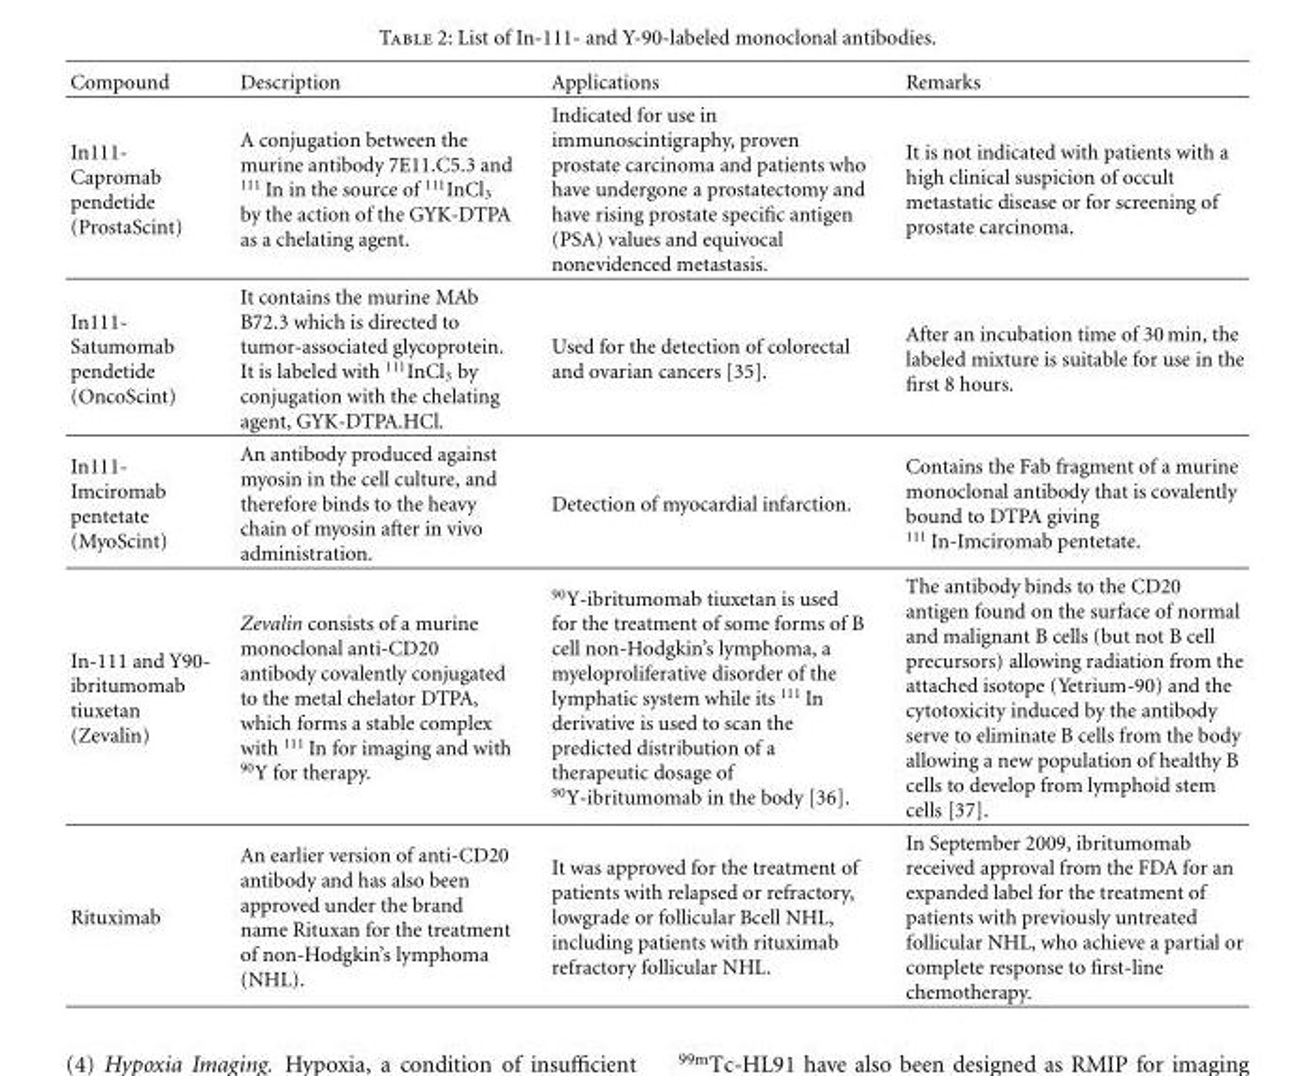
<table><thead><tr><td>Compound</td><td>Description</td><td>Applications</td><td>Remarks</td></tr></thead><tbody><tr><td>In111- Capromab pendetide (ProstaScint)</td><td>A conjugation between the murine antibody 7E11.C5.3 and <sup>111</sup> In in the source of <sup>111</sup>InCl<sub>3</sub> by the action of the GYK-DTPA as a chelating agent.</td><td>Indicated for use in immunoscintigraphy, proven prostate carcinoma and patients who have undergone a prostatectomy and have rising prostate specific antigen (PSA) values and equivocal nonevidenced metastasis.</td><td>It is not indicated with patients with a high clinical suspicion of occult metastatic disease or for screening of prostate carcinoma.</td></tr><tr><td>In111- Satumomab pendetide (OncoScint)</td><td>It contains the murine MAb B72.3 which is directed to tumor-associated glycoprotein. It is labeled with <sup>111</sup>InCl<sub>3</sub> by conjugation with the chelating agent, GYK-DTPA.HCl.</td><td>Used for the detection of colorectal and ovarian cancers [35].</td><td>After an incubation time of 30 min, the labeled mixture is suitable for use in the first 8 hours.</td></tr><tr><td>In111- Imciromab pentetate (MyoScint)</td><td>An antibody produced against myosin in the cell culture, and therefore binds to the heavy chain of myosin after in vivo administration.</td><td>Detection of myocardial infarction.</td><td>Contains the Fab fragment of a murine monoclonal antibody that is covalently bound to DTPA giving <sup>111</sup> In-Imciromab pentetate.</td></tr><tr><td>In-111 and Y90- ibritumomab tiuxetan (Zevalin)</td><td>Zevalin consists of a murine monoclonal anti-CD20 antibody covalently conjugated to the metal chelator DTPA, which forms a stable complex with <sup>111</sup> In for imaging and with <sup>90</sup>Y for therapy.</td><td><sup>90</sup>Y-ibritumomab tiuxetan is used for the treatment of some forms of B cell non-Hodgkin’s lymphoma, a myeloproliferative disorder of the lymphatic system while its <sup>111</sup> In derivative is used to scan the predicted distribution of a therapeutic dosage of <sup>90</sup>Y-ibritumomab in the body [36].</td><td>The antibody binds to the CD20 antigen found on the surface of normal and malignant B cells (but not B cell precursors) allowing radiation from the attached isotope (Yetrium-90) and the cytotoxicity induced by the antibody serve to eliminate B cells from the body allowing a new population of healthy B cells to develop from lymphoid stem cells [37].</td></tr><tr><td>Rituximab</td><td>An earlier version of anti-CD20 antibody and has also been approved under the brand name Rituxan for the treatment of non-Hodgkin’s lymphoma (NHL).</td><td>It was approved for the treatment of patients with relapsed or refractory, lowgrade or follicular Bcell NHL, including patients with rituximab refractory follicular NHL.</td><td>In September 2009, ibritumomab received approval from the FDA for an expanded label for the treatment of patients with previously untreated follicular NHL, who achieve a partial or complete response to first-line chemotherapy.</td></tr></tbody></table>